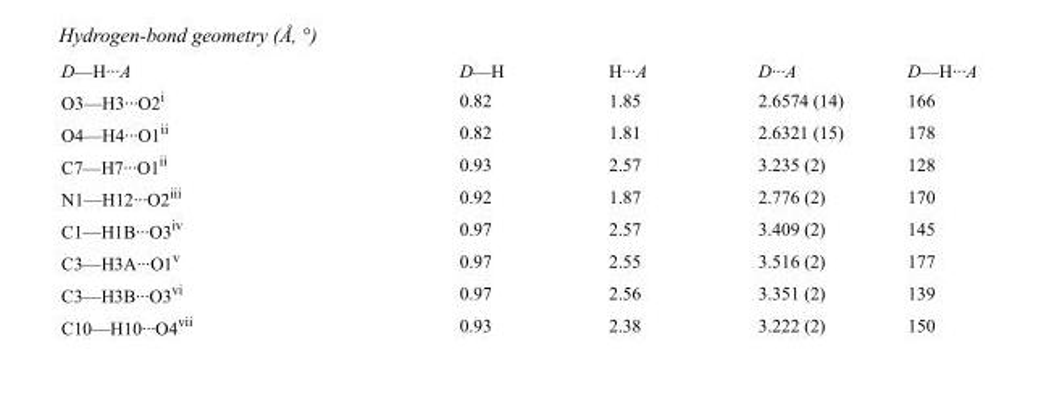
<table><tbody><tr><td>D—H···A</td><td>D—H</td><td>H···A</td><td>D···A</td><td>D—H···A</td></tr><tr><td>O3—H3···O2<sup>i</sup></td><td>0.82</td><td>1.85</td><td>2.6574 (14)</td><td>166</td></tr><tr><td>O4—H4···O1<sup>ii</sup></td><td>0.82</td><td>1.81</td><td>2.6321 (15)</td><td>178</td></tr><tr><td>C7—H7···O1<sup>ii</sup></td><td>0.93</td><td>2.57</td><td>3.235 (2)</td><td>128</td></tr><tr><td>N1—H12···O2<sup>iii</sup></td><td>0.92</td><td>1.87</td><td>2.776 (2)</td><td>170</td></tr><tr><td>C1—H1B···O3<sup>iv</sup></td><td>0.97</td><td>2.57</td><td>3.409 (2)</td><td>145</td></tr><tr><td>C3—H3A···O1<sup>v</sup></td><td>0.97</td><td>2.55</td><td>3.516 (2)</td><td>177</td></tr><tr><td>C3—H3B···O3<sup>vi</sup></td><td>0.97</td><td>2.56</td><td>3.351 (2)</td><td>139</td></tr><tr><td>C10—H10···O4<sup>vii</sup></td><td>0.93</td><td>2.38</td><td>3.222 (2)</td><td>150</td></tr></tbody></table>